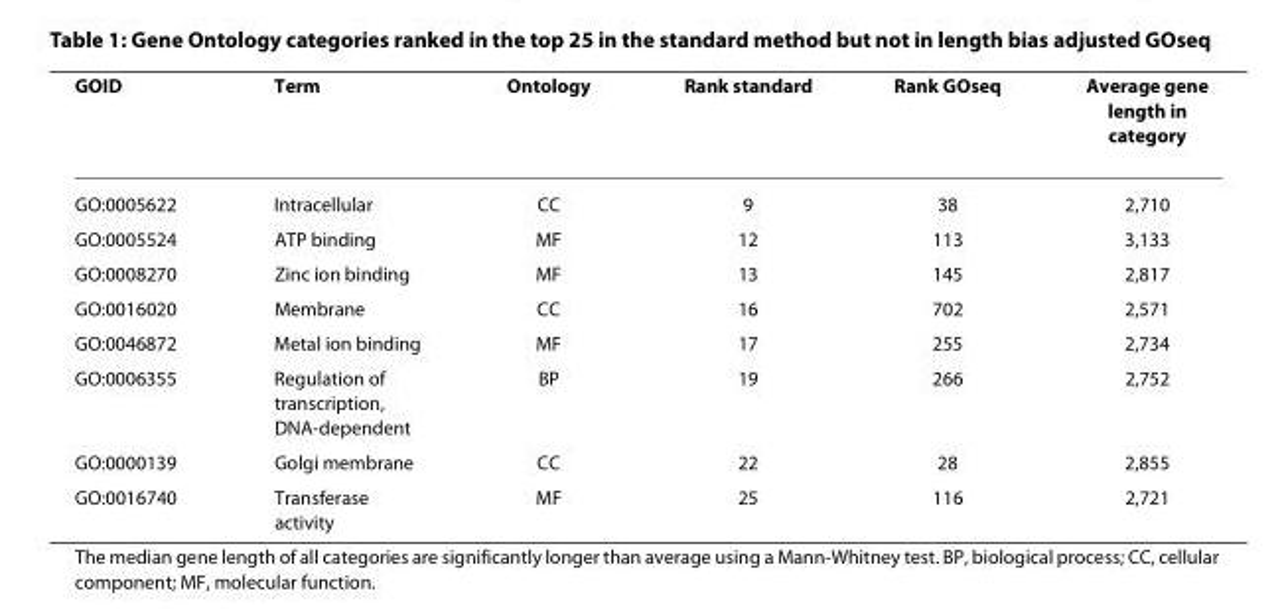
<table><thead><tr><td>GOID</td><td>Term</td><td>Ontology</td><td>Rank standard</td><td>Rank GOseq</td><td>Average gene length in category</td></tr></thead><tbody><tr><td>GO:0005622</td><td>Intracellular</td><td>CC</td><td>9</td><td>38</td><td>2,710</td></tr><tr><td>GO:0005524</td><td>ATP binding</td><td>MF</td><td>12</td><td>113</td><td>3,133</td></tr><tr><td>GO:0008270</td><td>Zinc ion binding</td><td>MF</td><td>13</td><td>145</td><td>2,817</td></tr><tr><td>GO:0016020</td><td>Membrane</td><td>CC</td><td>16</td><td>702</td><td>2,571</td></tr><tr><td>GO:0046872</td><td>Metal ion binding</td><td>MF</td><td>17</td><td>255</td><td>2,734</td></tr><tr><td>GO:0006355</td><td>Regulation of transcription, DNA-dependent</td><td>BP</td><td>19</td><td>266</td><td>2,752</td></tr><tr><td>GO:0000139</td><td>Golgi membrane</td><td>CC</td><td>22</td><td>28</td><td>2,855</td></tr><tr><td>GO:0016740</td><td>Transferase activity</td><td>MF</td><td>25</td><td>116</td><td>2,721</td></tr></tbody></table>